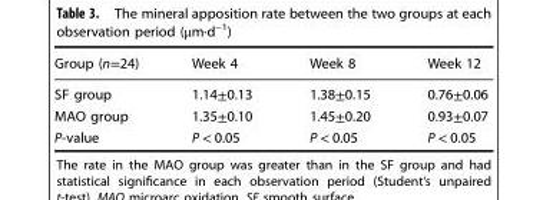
<table><thead><tr><td>Group (n=24)</td><td>Week 4</td><td>Week 8</td><td>Week 12</td></tr></thead><tbody><tr><td>SF group</td><td>1.14±0.13</td><td>1.38±0.15</td><td>0.76±0.06</td></tr><tr><td>MAO group</td><td>1.35±0.10</td><td>1.45±0.20</td><td>0.93±0.07</td></tr><tr><td>P-value</td><td>P &lt; 0.05</td><td>P &lt; 0.05</td><td>P &lt; 0.05</td></tr></tbody></table>